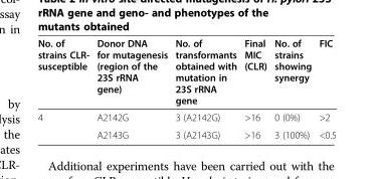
<table><thead><tr><td>No. of strains CLR- susceptible</td><td>Donor DNA for mutagenesis (region of the 23S rRNA gene)</td><td>No. of transformants obtained with mutation in 23S rRNA gene</td><td>Final MIC (CLR)</td><td>No. of strains showing synergy</td><td>FIC</td></tr></thead><tbody><tr><td rowspan="2">4</td><td>A2142G</td><td>3 (A2142G)</td><td>&gt;16</td><td>0 (0%)</td><td>&gt;2</td></tr><tr><td>A2143G</td><td>3 (A2143G)</td><td>&gt;16</td><td>3 (100%)</td><td>&lt;0.5</td></tr></tbody></table>